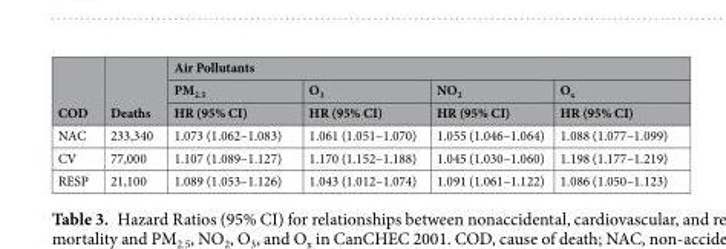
<table><thead><tr><td rowspan="3">COD</td><td rowspan="3">Deaths</td><td colspan="4">Air Pollutants</td></tr><tr><td rowspan="2">PM<sub>2.5</sub> HR (95% CI)</td><td rowspan="2">O<sub>3</sub> HR (95% CI)</td><td rowspan="2">NO<sub>2</sub> HR (95% CI)</td><td rowspan="2">O<sub>x</sub> HR (95% CI)</td></tr><tr></tr></thead><tbody><tr><td>NAC</td><td>233,340</td><td>1.073 (1.062–1.083)</td><td>1.061 (1.051–1.070)</td><td>1.055 (1.046–1.064)</td><td>1.088 (1.077–1.099)</td></tr><tr><td>CV</td><td>77,000</td><td>1.107 (1.089–1.127)</td><td>1.170 (1.152–1.188)</td><td>1.045 (1.030–1.060)</td><td>1.198 (1.177–1.219)</td></tr><tr><td>RESP</td><td>21,100</td><td>1.089 (1.053–1.126)</td><td>1.043 (1.012–1.074)</td><td>1.091 (1.061–1.122)</td><td>1.086 (1.050–1.123)</td></tr></tbody></table>